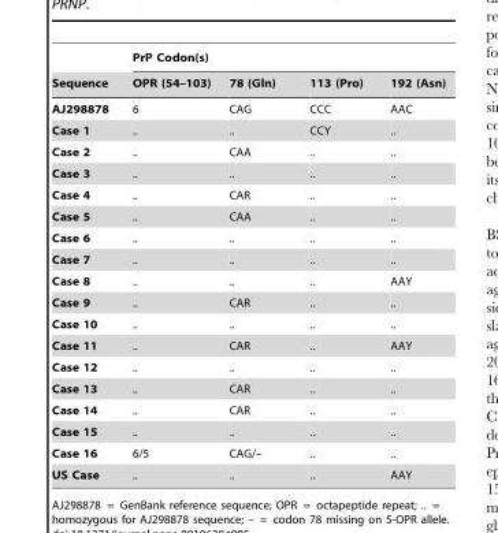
<table><thead><tr><td rowspan="2">Sequence</td><td colspan="4">PrP Codon(s)</td></tr><tr><td>OPR (54–103)</td><td>78 (Gln)</td><td>113 (Pro)</td><td>192 (Asn)</td></tr></thead><tbody><tr><td>AJ298878</td><td>6</td><td>CAG</td><td>CCC</td><td>AAC</td></tr><tr><td>Case 1</td><td>..</td><td>..</td><td>CCY</td><td>..</td></tr><tr><td>Case 2</td><td>..</td><td>CAA</td><td>..</td><td>..</td></tr><tr><td>Case 3</td><td>..</td><td>..</td><td>..</td><td>..</td></tr><tr><td>Case 4</td><td>..</td><td>CAR</td><td>..</td><td>..</td></tr><tr><td>Case 5</td><td>..</td><td>CAA</td><td>..</td><td>..</td></tr><tr><td>Case 6</td><td>..</td><td>..</td><td>..</td><td>..</td></tr><tr><td>Case 7</td><td>..</td><td>..</td><td>..</td><td>..</td></tr><tr><td>Case 8</td><td>..</td><td>..</td><td>..</td><td>AAY</td></tr><tr><td>Case 9</td><td>..</td><td>CAR</td><td>..</td><td>..</td></tr><tr><td>Case 10</td><td>..</td><td>..</td><td>..</td><td>..</td></tr><tr><td>Case 11</td><td>..</td><td>CAR</td><td>..</td><td>AAY</td></tr><tr><td>Case 12</td><td>..</td><td>..</td><td>..</td><td>..</td></tr><tr><td>Case 13</td><td>..</td><td>CAR</td><td>..</td><td>..</td></tr><tr><td>Case 14</td><td>..</td><td>CAR</td><td>..</td><td>..</td></tr><tr><td>Case 15</td><td>..</td><td>..</td><td>..</td><td>..</td></tr><tr><td>Case 16</td><td>6/5</td><td>CAG/–</td><td>..</td><td>..</td></tr><tr><td>US Case</td><td>..</td><td>..</td><td>..</td><td>AAY</td></tr></tbody></table>